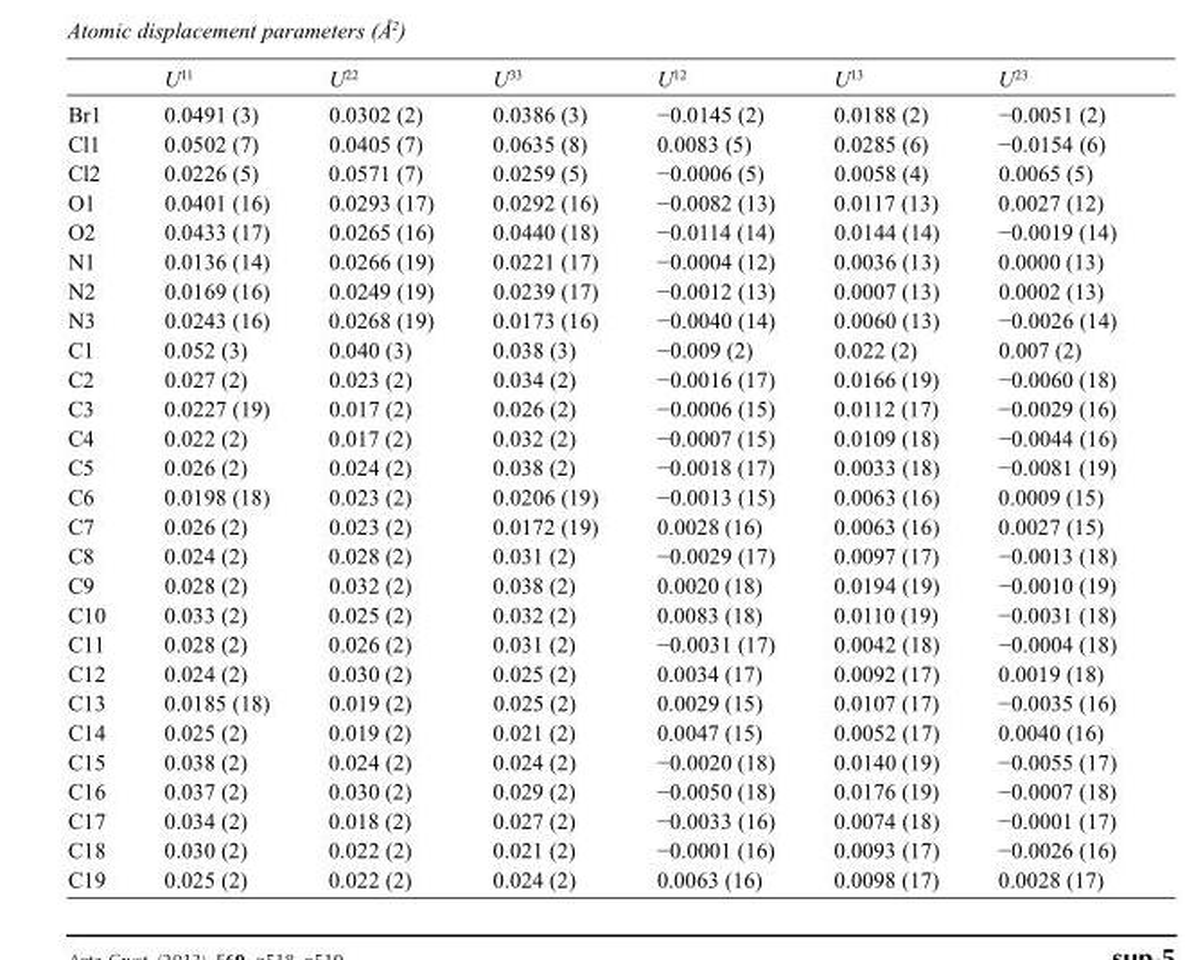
<table><thead><tr><td></td><td>U<sup>11</sup></td><td>U<sup>22</sup></td><td>U<sup>33</sup></td><td>U<sup>12</sup></td><td>U<sup>13</sup></td><td>U<sup>23</sup></td></tr></thead><tbody><tr><td>Br1</td><td>0.0491 (3)</td><td>0.0302 (2)</td><td>0.0386 (3)</td><td>−0.0145 (2)</td><td>0.0188 (2)</td><td>−0.0051 (2)</td></tr><tr><td>Cl1</td><td>0.0502 (7)</td><td>0.0405 (7)</td><td>0.0635 (8)</td><td>0.0083 (5)</td><td>0.0285 (6)</td><td>−0.0154 (6)</td></tr><tr><td>Cl2</td><td>0.0226 (5)</td><td>0.0571 (7)</td><td>0.0259 (5)</td><td>−0.0006 (5)</td><td>0.0058 (4)</td><td>0.0065 (5)</td></tr><tr><td>O1</td><td>0.0401 (16)</td><td>0.0293 (17)</td><td>0.0292 (16)</td><td>−0.0082 (13)</td><td>0.0117 (13)</td><td>0.0027 (12)</td></tr><tr><td>O2</td><td>0.0433 (17)</td><td>0.0265 (16)</td><td>0.0440 (18)</td><td>−0.0114 (14)</td><td>0.0144 (14)</td><td>−0.0019 (14)</td></tr><tr><td>N1</td><td>0.0136 (14)</td><td>0.0266 (19)</td><td>0.0221 (17)</td><td>−0.0004 (12)</td><td>0.0036 (13)</td><td>0.0000 (13)</td></tr><tr><td>N2</td><td>0.0169 (16)</td><td>0.0249 (19)</td><td>0.0239 (17)</td><td>−0.0012 (13)</td><td>0.0007 (13)</td><td>0.0002 (13)</td></tr><tr><td>N3</td><td>0.0243 (16)</td><td>0.0268 (19)</td><td>0.0173 (16)</td><td>−0.0040 (14)</td><td>0.0060 (13)</td><td>−0.0026 (14)</td></tr><tr><td>C1</td><td>0.052 (3)</td><td>0.040 (3)</td><td>0.038 (3)</td><td>−0.009 (2)</td><td>0.022 (2)</td><td>0.007 (2)</td></tr><tr><td>C2</td><td>0.027 (2)</td><td>0.023 (2)</td><td>0.034 (2)</td><td>−0.0016 (17)</td><td>0.0166 (19)</td><td>−0.0060 (18)</td></tr><tr><td>C3</td><td>0.0227 (19)</td><td>0.017 (2)</td><td>0.026 (2)</td><td>−0.0006 (15)</td><td>0.0112 (17)</td><td>−0.0029 (16)</td></tr><tr><td>C4</td><td>0.022 (2)</td><td>0.017 (2)</td><td>0.032 (2)</td><td>−0.0007 (15)</td><td>0.0109 (18)</td><td>−0.0044 (16)</td></tr><tr><td>C5</td><td>0.026 (2)</td><td>0.024 (2)</td><td>0.038 (2)</td><td>−0.0018 (17)</td><td>0.0033 (18)</td><td>−0.0081 (19)</td></tr><tr><td>C6</td><td>0.0198 (18)</td><td>0.023 (2)</td><td>0.0206 (19)</td><td>−0.0013 (15)</td><td>0.0063 (16)</td><td>0.0009 (15)</td></tr><tr><td>C7</td><td>0.026 (2)</td><td>0.023 (2)</td><td>0.0172 (19)</td><td>0.0028 (16)</td><td>0.0063 (16)</td><td>0.0027 (15)</td></tr><tr><td>C8</td><td>0.024 (2)</td><td>0.028 (2)</td><td>0.031 (2)</td><td>−0.0029 (17)</td><td>0.0097 (17)</td><td>−0.0013 (18)</td></tr><tr><td>C9</td><td>0.028 (2)</td><td>0.032 (2)</td><td>0.038 (2)</td><td>0.0020 (18)</td><td>0.0194 (19)</td><td>−0.0010 (19)</td></tr><tr><td>C10</td><td>0.033 (2)</td><td>0.025 (2)</td><td>0.032 (2)</td><td>0.0083 (18)</td><td>0.0110 (19)</td><td>−0.0031 (18)</td></tr><tr><td>C11</td><td>0.028 (2)</td><td>0.026 (2)</td><td>0.031 (2)</td><td>−0.0031 (17)</td><td>0.0042 (18)</td><td>−0.0004 (18)</td></tr><tr><td>C12</td><td>0.024 (2)</td><td>0.030 (2)</td><td>0.025 (2)</td><td>0.0034 (17)</td><td>0.0092 (17)</td><td>0.0019 (18)</td></tr><tr><td>C13</td><td>0.0185 (18)</td><td>0.019 (2)</td><td>0.025 (2)</td><td>0.0029 (15)</td><td>0.0107 (17)</td><td>−0.0035 (16)</td></tr><tr><td>C14</td><td>0.025 (2)</td><td>0.019 (2)</td><td>0.021 (2)</td><td>0.0047 (15)</td><td>0.0052 (17)</td><td>0.0040 (16)</td></tr><tr><td>C15</td><td>0.038 (2)</td><td>0.024 (2)</td><td>0.024 (2)</td><td>−0.0020 (18)</td><td>0.0140 (19)</td><td>−0.0055 (17)</td></tr><tr><td>C16</td><td>0.037 (2)</td><td>0.030 (2)</td><td>0.029 (2)</td><td>−0.0050 (18)</td><td>0.0176 (19)</td><td>−0.0007 (18)</td></tr><tr><td>C17</td><td>0.034 (2)</td><td>0.018 (2)</td><td>0.027 (2)</td><td>−0.0033 (16)</td><td>0.0074 (18)</td><td>−0.0001 (17)</td></tr><tr><td>C18</td><td>0.030 (2)</td><td>0.022 (2)</td><td>0.021 (2)</td><td>−0.0001 (16)</td><td>0.0093 (17)</td><td>−0.0026 (16)</td></tr><tr><td>C19</td><td>0.025 (2)</td><td>0.022 (2)</td><td>0.024 (2)</td><td>0.0063 (16)</td><td>0.0098 (17)</td><td>0.0028 (17)</td></tr></tbody></table>